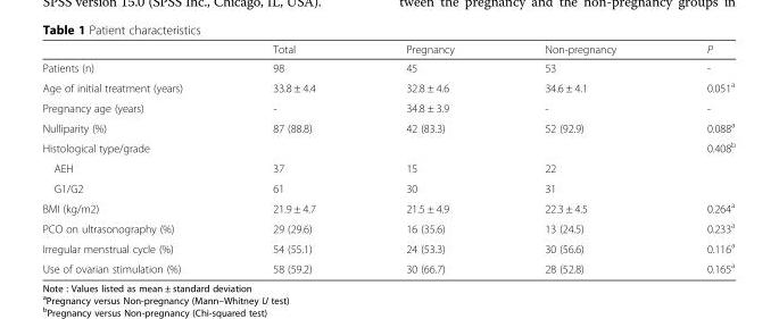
<table><thead><tr><td></td><td>Total</td><td>Pregnancy</td><td>Non-pregnancy</td><td>P</td></tr></thead><tbody><tr><td>Patients (n)</td><td>98</td><td>45</td><td>53</td><td>-</td></tr><tr><td>Age of initial treatment (years)</td><td>33.8 ± 4.4</td><td>32.8 ± 4.6</td><td>34.6 ± 4.1</td><td>0.051<sup>a</sup></td></tr><tr><td>Pregnancy age (years)</td><td>-</td><td>34.8 ± 3.9</td><td>-</td><td>-</td></tr><tr><td>Nulliparity (%)</td><td>87 (88.8)</td><td>42 (83.3)</td><td>52 (92.9)</td><td>0.088<sup>a</sup></td></tr><tr><td>Histological type/grade</td><td></td><td></td><td></td><td>0.408<sup>b</sup></td></tr><tr><td>AEH</td><td>37</td><td>15</td><td>22</td><td></td></tr><tr><td>G1/G2</td><td>61</td><td>30</td><td>31</td><td></td></tr><tr><td>BMI (kg/m2)</td><td>21.9 ± 4.7</td><td>21.5 ± 4.9</td><td>22.3 ± 4.5</td><td>0.264<sup>a</sup></td></tr><tr><td>PCO on ultrasonography (%)</td><td>29 (29.6)</td><td>16 (35.6)</td><td>13 (24.5)</td><td>0.233<sup>a</sup></td></tr><tr><td>Irregular menstrual cycle (%)</td><td>54 (55.1)</td><td>24 (53.3)</td><td>30 (56.6)</td><td>0.116<sup>a</sup></td></tr><tr><td>Use of ovarian stimulation (%)</td><td>58 (59.2)</td><td>30 (66.7)</td><td>28 (52.8)</td><td>0.165<sup>a</sup></td></tr></tbody></table>